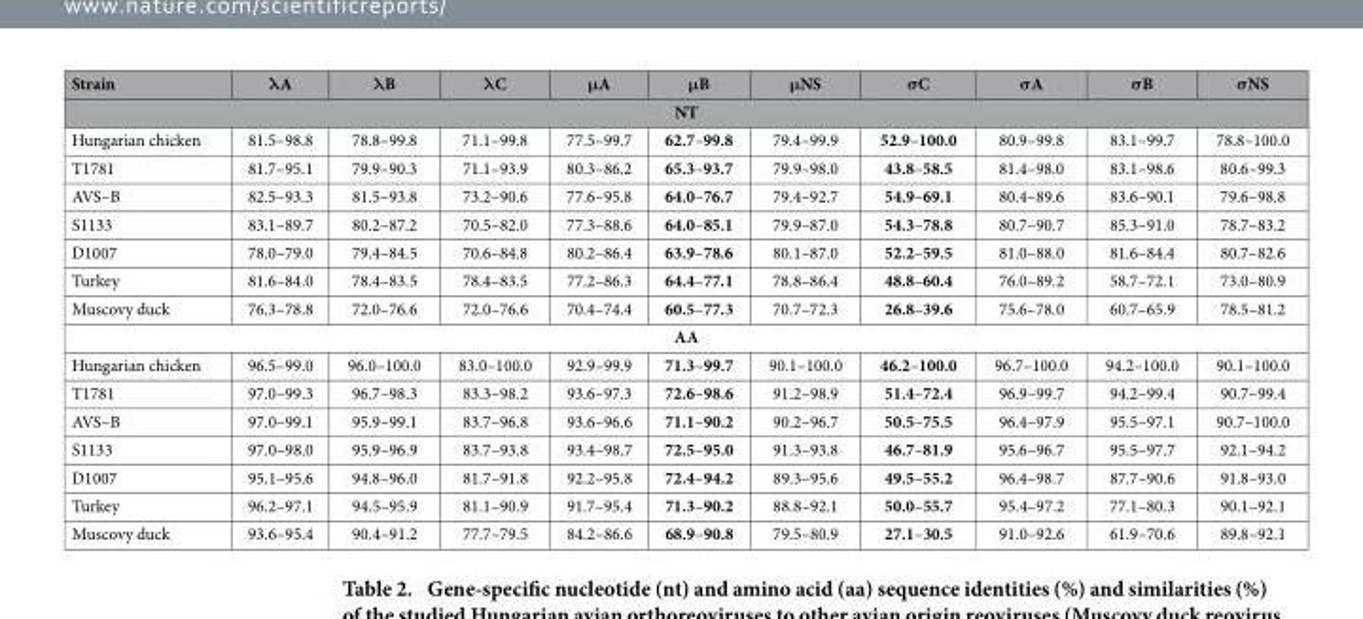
<table><thead><tr><td>Strain</td><td>λA</td><td>λB</td><td>λC</td><td>μA</td><td>μB</td><td>μNS</td><td>σC</td><td>σA</td><td>σB</td><td>σNS</td></tr><tr><td colspan="11">NT</td></tr></thead><tbody><tr><td>Hungarian chicken</td><td>81.5–98.8</td><td>78.8–99.8</td><td>71.1–99.8</td><td>77.5–99.7</td><td>62.7–99.8</td><td>79.4–99.9</td><td>52.9–100.0</td><td>80.9–99.8</td><td>83.1–99.7</td><td>78.8–100.0</td></tr><tr><td>T1781</td><td>81.7–95.1</td><td>79.9–90.3</td><td>71.1–93.9</td><td>80.3–86.2</td><td>65.3–93.7</td><td>79.9–98.0</td><td>43.8–58.5</td><td>81.4–98.0</td><td>83.1–98.6</td><td>80.6–99.3</td></tr><tr><td>AVS–B</td><td>82.5–93.3</td><td>81.5–93.8</td><td>73.2–90.6</td><td>77.6–95.8</td><td>64.0–76.7</td><td>79.4–92.7</td><td>54.9–69.1</td><td>80.4–89.6</td><td>83.6–90.1</td><td>79.6–98.8</td></tr><tr><td>S1133</td><td>83.1–89.7</td><td>80.2–87.2</td><td>70.5–82.0</td><td>77.3–88.6</td><td>64.0–85.1</td><td>79.9–87.0</td><td>54.3–78.8</td><td>80.7–90.7</td><td>85.3–91.0</td><td>78.7–83.2</td></tr><tr><td>D1007</td><td>78.0–79.0</td><td>79.4–84.5</td><td>70.6–84.8</td><td>80.2–86.4</td><td>63.9–78.6</td><td>80.1–87.0</td><td>52.2–59.5</td><td>81.0–88.0</td><td>81.6–84.4</td><td>80.7–82.6</td></tr><tr><td>Turkey</td><td>81.6–84.0</td><td>78.4–83.5</td><td>78.4–83.5</td><td>77.2–86.3</td><td>64.4–77.1</td><td>78.8–86.4</td><td>48.8–60.4</td><td>76.0–89.2</td><td>58.7–72.1</td><td>73.0–80.9</td></tr><tr><td>Muscovy duck</td><td>76.3–78.8</td><td>72.0–76.6</td><td>72.0–76.6</td><td>70.4–74.4</td><td>60.5–77.3</td><td>70.7–72.3</td><td>26.8–39.6</td><td>75.6–78.0</td><td>60.7–65.9</td><td>78.5–81.2</td></tr><tr><td colspan="11">AA</td></tr><tr><td>Hungarian chicken</td><td>96.5–99.0</td><td>96.0–100.0</td><td>83.0–100.0</td><td>92.9–99.9</td><td>71.3–99.7</td><td>90.1–100.0</td><td>46.2–100.0</td><td>96.7–100.0</td><td>94.2–100.0</td><td>90.1–100.0</td></tr><tr><td>T1781</td><td>97.0–99.3</td><td>96.7–98.3</td><td>83.3–98.2</td><td>93.6–97.3</td><td>72.6–98.6</td><td>91.2–98.9</td><td>51.4–72.4</td><td>96.9–99.7</td><td>94.2–99.4</td><td>90.7–99.4</td></tr><tr><td>AVS–B</td><td>97.0–99.1</td><td>95.9–99.1</td><td>83.7–96.8</td><td>93.6–96.6</td><td>71.1–90.2</td><td>90.2–96.7</td><td>50.5–75.5</td><td>96.4–97.9</td><td>95.5–97.1</td><td>90.7–100.0</td></tr><tr><td>S1133</td><td>97.0–98.0</td><td>95.9–96.9</td><td>83.7–93.8</td><td>93.4–98.7</td><td>72.5–95.0</td><td>91.3–93.8</td><td>46.7–81.9</td><td>95.6–96.7</td><td>95.5–97.7</td><td>92.1–94.2</td></tr><tr><td>D1007</td><td>95.1–95.6</td><td>94.8–96.0</td><td>81.7–91.8</td><td>92.2–95.8</td><td>72.4–94.2</td><td>89.3–95.6</td><td>49.5–55.2</td><td>96.4–98.7</td><td>87.7–90.6</td><td>91.8–93.0</td></tr><tr><td>Turkey</td><td>96.2–97.1</td><td>94.5–95.9</td><td>81.1–90.9</td><td>91.7–95.4</td><td>71.3–90.2</td><td>88.8–92.1</td><td>50.0–55.7</td><td>95.4–97.2</td><td>77.1–80.3</td><td>90.1–92.1</td></tr><tr><td>Muscovy duck</td><td>93.6–95.4</td><td>90.4–91.2</td><td>77.7–79.5</td><td>84.2–86.6</td><td>68.9–90.8</td><td>79.5–80.9</td><td>27.1–30.5</td><td>91.0–92.6</td><td>61.9–70.6</td><td>89.8–92.1</td></tr></tbody></table>